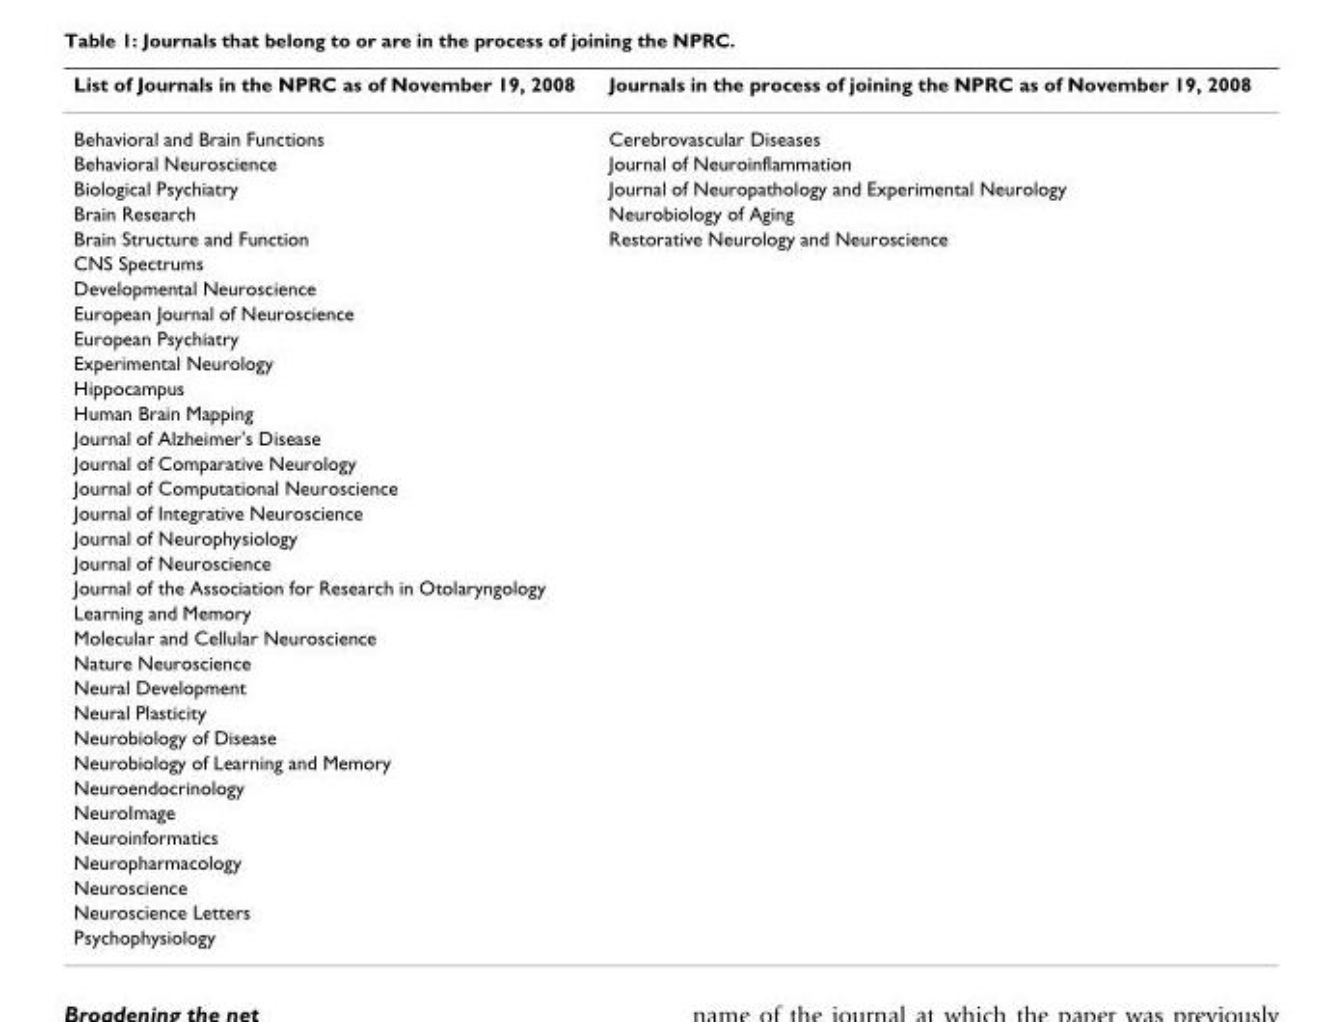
<table><thead><tr><td>List of Journals in the NPRC as of November 19, 2008</td><td>Journals in the process of joining the NPRC as of November 19, 2008</td></tr></thead><tbody><tr><td>Behavioral and Brain Functions</td><td>Cerebrovascular Diseases</td></tr><tr><td>Behavioral Neuroscience</td><td>Journal of Neuroinflammation</td></tr><tr><td>Biological Psychiatry</td><td>Journal of Neuropathology and Experimental Neurology</td></tr><tr><td>Brain Research</td><td>Neurobiology of Aging</td></tr><tr><td>Brain Structure and Function</td><td>Restorative Neurology and Neuroscience</td></tr><tr><td colspan="2">CNS Spectrums</td></tr><tr><td colspan="2">Developmental Neuroscience</td></tr><tr><td colspan="2">European Journal of Neuroscience</td></tr><tr><td colspan="2">European Psychiatry</td></tr><tr><td colspan="2">Experimental Neurology</td></tr><tr><td colspan="2">Hippocampus</td></tr><tr><td colspan="2">Human Brain Mapping</td></tr><tr><td colspan="2">Journal of Alzheimer&#x27;s Disease</td></tr><tr><td colspan="2">Journal of Comparative Neurology</td></tr><tr><td colspan="2">Journal of Computational Neuroscience</td></tr><tr><td colspan="2">Journal of Integrative Neuroscience</td></tr><tr><td colspan="2">Journal of Neurophysiology</td></tr><tr><td colspan="2">Journal of Neuroscience</td></tr><tr><td colspan="2">Journal of the Association for Research in Otolaryngology</td></tr><tr><td colspan="2">Learning and Memory</td></tr><tr><td colspan="2">Molecular and Cellular Neuroscience</td></tr><tr><td colspan="2">Nature Neuroscience</td></tr><tr><td colspan="2">Neural Development</td></tr><tr><td colspan="2">Neural Plasticity</td></tr><tr><td colspan="2">Neurobiology of Disease</td></tr><tr><td colspan="2">Neurobiology of Learning and Memory</td></tr><tr><td colspan="2">Neuroendocrinology</td></tr><tr><td colspan="2">NeuroImage</td></tr><tr><td colspan="2">Neuroinformatics</td></tr><tr><td colspan="2">Neuropharmacology</td></tr><tr><td colspan="2">Neuroscience</td></tr><tr><td colspan="2">Neuroscience Letters</td></tr><tr><td>Psychophysiology</td><td></td></tr></tbody></table>